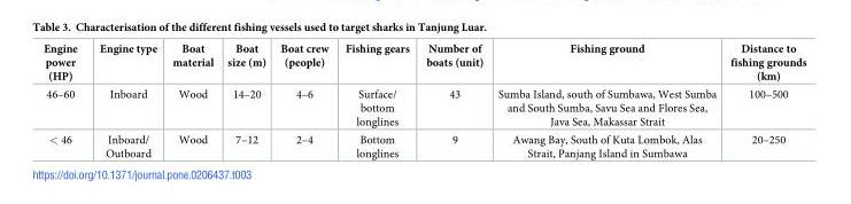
<table><thead><tr><td>Engine power (HP)</td><td>Engine type</td><td>Boat material</td><td>Boat size (m)</td><td>Boat crew (people)</td><td>Fishing gears</td><td>Number of boats (unit)</td><td>Fishing ground</td><td>Distance to fishing grounds (km)</td></tr></thead><tbody><tr><td>46–60</td><td>Inboard</td><td>Wood</td><td>14–20</td><td>4–6</td><td>Surface/ bottom longlines</td><td>43</td><td>Sumba Island, south of Sumbawa, West Sumba and South Sumba, Savu Sea and Flores Sea, Java Sea, Makassar Strait</td><td>100–500</td></tr><tr><td>&lt; 46</td><td>Inboard/ Outboard</td><td>Wood</td><td>7–12</td><td>2–4</td><td>Bottom longlines</td><td>9</td><td>Awang Bay, South of Kuta Lombok, Alas Strait, Panjang Island in Sumbawa</td><td>20–250</td></tr></tbody></table>